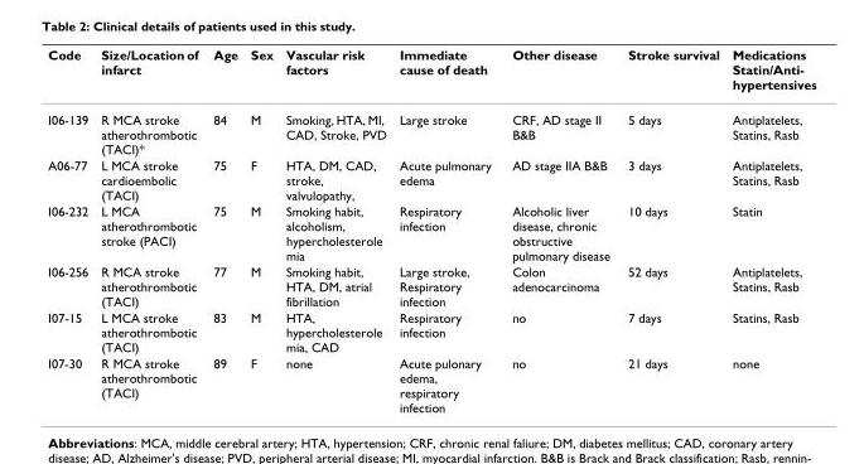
<table><thead><tr><td>Code</td><td>Size/Location of infarct</td><td>Age</td><td>Sex</td><td>Vascular risk factors</td><td>Immediate cause of death</td><td>Other disease</td><td>Stroke survival</td><td>Medications Statin/Anti- hypertensives</td></tr></thead><tbody><tr><td>I06-139</td><td>R MCA stroke atherothrombotic (TACI)*</td><td>84</td><td>M</td><td>Smoking, HTA, MI, CAD, Stroke, PVD</td><td>Large stroke</td><td>CRF, AD stage II B&amp;B</td><td>5 days</td><td>Antiplatelets, Statins, Rasb</td></tr><tr><td>A06-77</td><td>L MCA stroke cardioembolic (TACI)</td><td>75</td><td>F</td><td>HTA, DM, CAD, stroke, valvulopathy,</td><td>Acute pulmonary edema</td><td>AD stage IIA B&amp;B</td><td>3 days</td><td>Antiplatelets, Statins, Rasb</td></tr><tr><td>I06-232</td><td>L MCA atherothrombotic stroke (PACI)</td><td>75</td><td>M</td><td>Smoking habit, alcoholism, hypercholesterole mia</td><td>Respiratory infection</td><td>Alcoholic liver disease, chronic obstructive pulmonary disease</td><td>10 days</td><td>Statin</td></tr><tr><td>I06-256</td><td>R MCA stroke atherothrombotic (TACI)</td><td>77</td><td>M</td><td>Smoking habit, HTA, DM, atrial fibrillation</td><td>Large stroke, Respiratory infection</td><td>Colon adenocarcinoma</td><td>52 days</td><td>Antiplatelets, Statins, Rasb</td></tr><tr><td>I07-15</td><td>L MCA stroke atherothrombotic (TACI)</td><td>83</td><td>M</td><td>HTA, hypercholesterole mia, CAD</td><td>Respiratory infection</td><td>no</td><td>7 days</td><td>Statins, Rasb</td></tr><tr><td>I07-30</td><td>R MCA stroke atherothrombotic (TACI)</td><td>89</td><td>F</td><td>none</td><td>Acute pulonary edema, respiratory infection</td><td>no</td><td>21 days</td><td>none</td></tr></tbody></table>